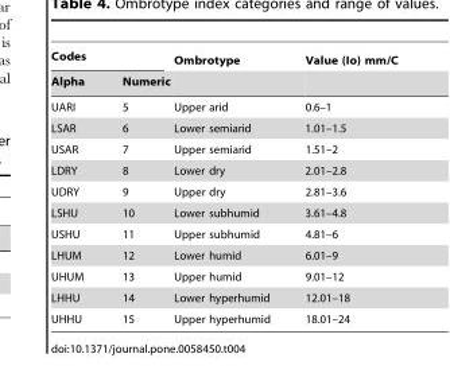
<table><thead><tr><td colspan="2">Codes</td><td rowspan="2">Ombrotype</td><td rowspan="2">Value (Io) mm/C</td></tr><tr><td>Alpha</td><td>Numeric</td></tr></thead><tbody><tr><td>UARI</td><td>5</td><td>Upper arid</td><td>0.6–1</td></tr><tr><td>LSAR</td><td>6</td><td>Lower semiarid</td><td>1.01–1.5</td></tr><tr><td>USAR</td><td>7</td><td>Upper semiarid</td><td>1.51–2</td></tr><tr><td>LDRY</td><td>8</td><td>Lower dry</td><td>2.01–2.8</td></tr><tr><td>UDRY</td><td>9</td><td>Upper dry</td><td>2.81–3.6</td></tr><tr><td>LSHU</td><td>10</td><td>Lower subhumid</td><td>3.61–4.8</td></tr><tr><td>USHU</td><td>11</td><td>Upper subhumid</td><td>4.81–6</td></tr><tr><td>LHUM</td><td>12</td><td>Lower humid</td><td>6.01–9</td></tr><tr><td>UHUM</td><td>13</td><td>Upper humid</td><td>9.01–12</td></tr><tr><td>LHHU</td><td>14</td><td>Lower hyperhumid</td><td>12.01–18</td></tr><tr><td>UHHU</td><td>15</td><td>Upper hyperhumid</td><td>18.01–24</td></tr></tbody></table>